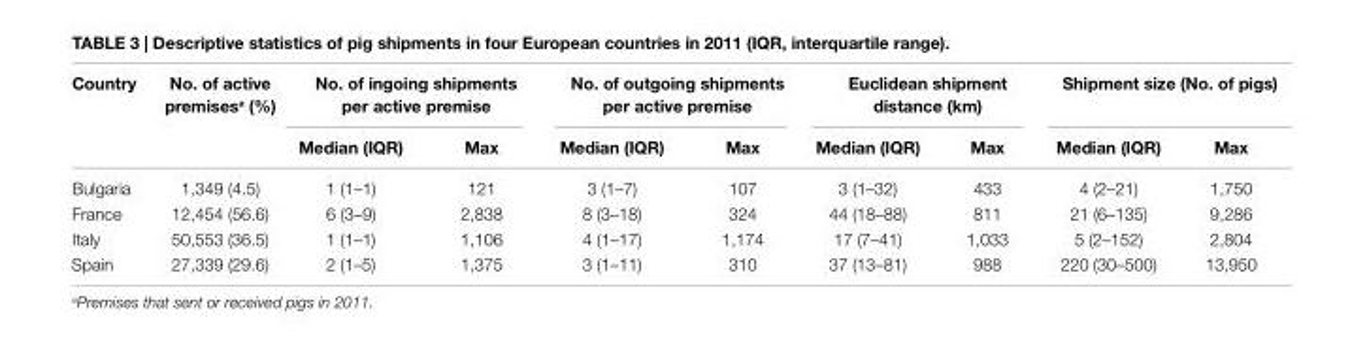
<table><thead><tr><td rowspan="2">country</td><td rowspan="2">no. of active premises<sup>a</sup> (%)</td><td colspan="2">no. of ingoing shipments per active premise</td><td colspan="2">no. of outgoing shipments per active premise</td><td colspan="2">euclidean shipment distance (km)</td><td colspan="2">shipment size (no. of pigs)</td></tr><tr><td>Median (iQr)</td><td>Max</td><td>Median (iQr)</td><td>Max</td><td>Median (iQr)</td><td>Max</td><td>Median (iQr)</td><td>Max</td></tr></thead><tbody><tr><td>Bulgaria</td><td>1,349 (4.5)</td><td>1 (1–1)</td><td>121</td><td>3 (1–7)</td><td>107</td><td>3 (1–32)</td><td>433</td><td>4 (2–21)</td><td>1,750</td></tr><tr><td>France</td><td>12,454 (56.6)</td><td>6 (3–9)</td><td>2,838</td><td>8 (3–18)</td><td>324</td><td>44 (18–88)</td><td>811</td><td>21 (6–135)</td><td>9,286</td></tr><tr><td>Italy</td><td>50,553 (36.5)</td><td>1 (1–1)</td><td>1,106</td><td>4 (1–17)</td><td>1,174</td><td>17 (7–41)</td><td>1,033</td><td>5 (2–152)</td><td>2,804</td></tr><tr><td>Spain</td><td>27,339 (29.6)</td><td>2 (1–5)</td><td>1,375</td><td>3 (1–11)</td><td>310</td><td>37 (13–81)</td><td>988</td><td>220 (30–500)</td><td>13,950</td></tr></tbody></table>